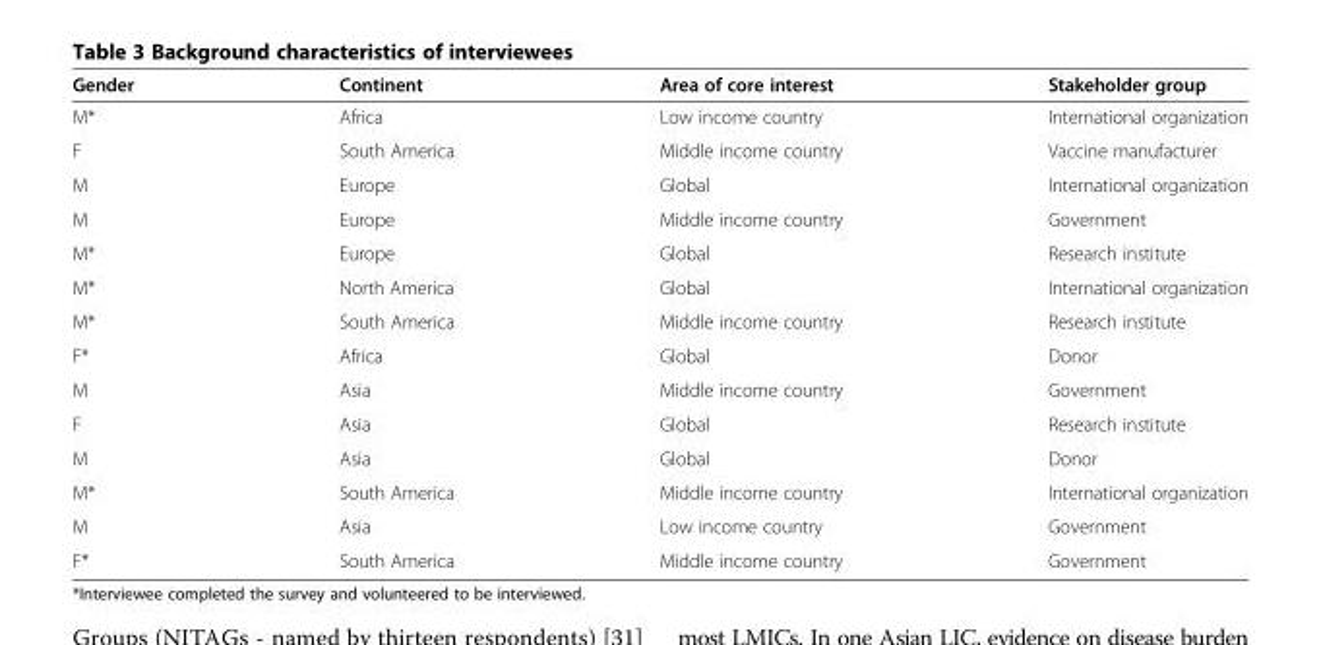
<table><thead><tr><td>Gender</td><td>Continent</td><td>Area of core interest</td><td>Stakeholder group</td></tr></thead><tbody><tr><td>M*</td><td>Africa</td><td>Low income country</td><td>International organization</td></tr><tr><td>F</td><td>South America</td><td>Middle income country</td><td>Vaccine manufacturer</td></tr><tr><td>M</td><td>Europe</td><td>Global</td><td>International organization</td></tr><tr><td>M</td><td>Europe</td><td>Middle income country</td><td>Government</td></tr><tr><td>M*</td><td>Europe</td><td>Global</td><td>Research institute</td></tr><tr><td>M*</td><td>North America</td><td>Global</td><td>International organization</td></tr><tr><td>M*</td><td>South America</td><td>Middle income country</td><td>Research institute</td></tr><tr><td>F*</td><td>Africa</td><td>Global</td><td>Donor</td></tr><tr><td>M</td><td>Asia</td><td>Middle income country</td><td>Government</td></tr><tr><td>F</td><td>Asia</td><td>Global</td><td>Research institute</td></tr><tr><td>M</td><td>Asia</td><td>Global</td><td>Donor</td></tr><tr><td>M*</td><td>South America</td><td>Middle income country</td><td>International organization</td></tr><tr><td>M</td><td>Asia</td><td>Low income country</td><td>Government</td></tr><tr><td>F*</td><td>South America</td><td>Middle income country</td><td>Government</td></tr></tbody></table>